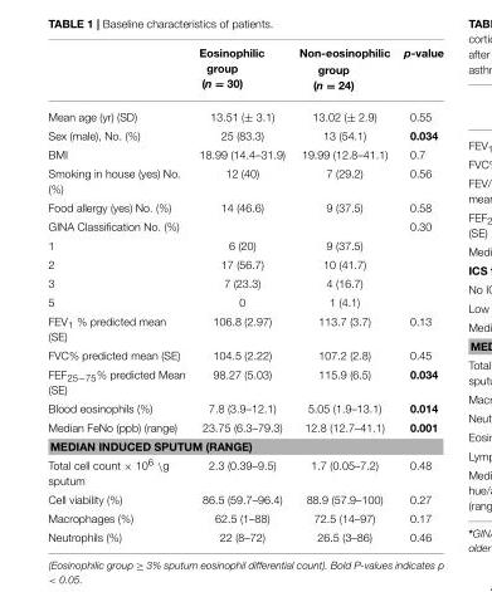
<table><thead><tr><td></td><td>Eosinophilic group (n = 30)</td><td>Non-eosinophilic group (n = 24)</td><td>p-value</td></tr></thead><tbody><tr><td>Mean age (yr) (SD)</td><td>13.51 (± 3.1)</td><td>13.02 (± 2.9)</td><td>0.55</td></tr><tr><td>Sex (male), No. (%)</td><td>25 (83.3)</td><td>13 (54.1)</td><td>0.034</td></tr><tr><td>BMI</td><td>18.99 (14.4–31.9)</td><td>19.99 (12.8–41.1)</td><td>0.7</td></tr><tr><td>Smoking in house (yes) No. (%)</td><td>12 (40)</td><td>7 (29.2)</td><td>0.56</td></tr><tr><td>Food allergy (yes) No. (%)</td><td>14 (46.6)</td><td>9 (37.5)</td><td>0.58</td></tr><tr><td>GINA Classification No. (%)</td><td></td><td></td><td>0.30</td></tr><tr><td>1</td><td>6 (20)</td><td>9 (37.5)</td><td></td></tr><tr><td>2</td><td>17 (56.7)</td><td>10 (41.7)</td><td></td></tr><tr><td>3</td><td>7 (23.3)</td><td>4 (16.7)</td><td></td></tr><tr><td>5</td><td>0</td><td>1 (4.1)</td><td></td></tr><tr><td>FEV<sub>1</sub> % predicted mean (SE)</td><td>106.8 (2.97)</td><td>113.7 (3.7)</td><td>0.13</td></tr><tr><td>FVC% predicted mean (SE)</td><td>104.5 (2.22)</td><td>107.2 (2.8)</td><td>0.45</td></tr><tr><td>FEF<sub>25−75</sub>% predicted Mean (SE)</td><td>98.27 (5.03)</td><td>115.9 (6.5)</td><td>0.034</td></tr><tr><td>Blood eosinophils (%)</td><td>7.8 (3.9–12.1)</td><td>5.05 (1.9–13.1)</td><td>0.014</td></tr><tr><td>Median FeNo (ppb) (range)</td><td>23.75 (6.3–79.3)</td><td>12.8 (12.7–41.1)</td><td>0.001</td></tr><tr><td colspan="4">MEDIAN INDUCED SPUTUM (RANGE)</td></tr><tr><td>Total cell count × 10<sup>6</sup> \g sputum</td><td>2.3 (0.39–9.5)</td><td>1.7 (0.05–7.2)</td><td>0.48</td></tr><tr><td>Cell viability (%)</td><td>86.5 (59.7–96.4)</td><td>88.9 (57.9–100)</td><td>0.27</td></tr><tr><td>Macrophages (%)</td><td>62.5 (1–88)</td><td>72.5 (14–97)</td><td>0.17</td></tr><tr><td>Neutrophils (%)</td><td>22 (8–72)</td><td>26.5 (3–86)</td><td>0.46</td></tr></tbody></table>